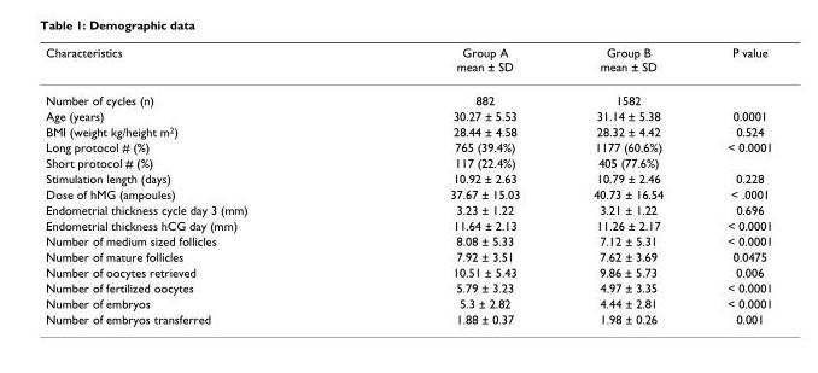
<table><thead><tr><td>Characteristics</td><td>Group A mean ± SD</td><td>Group B mean ± SD</td><td>P value</td></tr></thead><tbody><tr><td>Number of cycles (n)</td><td>882</td><td>1582</td><td></td></tr><tr><td>Age (years)</td><td>30.27 ± 5.53</td><td>31.14 ± 5.38</td><td>0.0001</td></tr><tr><td>BMI (weight kg/height m<sup>2</sup>)</td><td>28.44 ± 4.58</td><td>28.32 ± 4.42</td><td>0.524</td></tr><tr><td>Long protocol # (%)</td><td>765 (39.4%)</td><td>1177 (60.6%)</td><td>&lt; 0.0001</td></tr><tr><td>Short protocol # (%)</td><td>117 (22.4%)</td><td>405 (77.6%)</td><td></td></tr><tr><td>Stimulation length (days)</td><td>10.92 ± 2.63</td><td>10.79 ± 2.46</td><td>0.228</td></tr><tr><td>Dose of hMG (ampoules)</td><td>37.67 ± 15.03</td><td>40.73 ± 16.54</td><td>&lt; .0001</td></tr><tr><td>Endometrial thickness cycle day 3 (mm)</td><td>3.23 ± 1.22</td><td>3.21 ± 1.22</td><td>0.696</td></tr><tr><td>Endometrial thickness hCG day (mm)</td><td>11.64 ± 2.13</td><td>11.26 ± 2.17</td><td>&lt; 0.0001</td></tr><tr><td>Number of medium sized follicles</td><td>8.08 ± 5.33</td><td>7.12 ± 5.31</td><td>&lt; 0.0001</td></tr><tr><td>Number of mature follicles</td><td>7.92 ± 3.51</td><td>7.62 ± 3.69</td><td>0.0475</td></tr><tr><td>Number of oocytes retrieved</td><td>10.51 ± 5.43</td><td>9.86 ± 5.73</td><td>0.006</td></tr><tr><td>Number of fertilized oocytes</td><td>5.79 ± 3.23</td><td>4.97 ± 3.35</td><td>&lt; 0.0001</td></tr><tr><td>Number of embryos</td><td>5.3 ± 2.82</td><td>4.44 ± 2.81</td><td>&lt; 0.0001</td></tr><tr><td>Number of embryos transferred</td><td>1.88 ± 0.37</td><td>1.98 ± 0.26</td><td>0.001</td></tr></tbody></table>